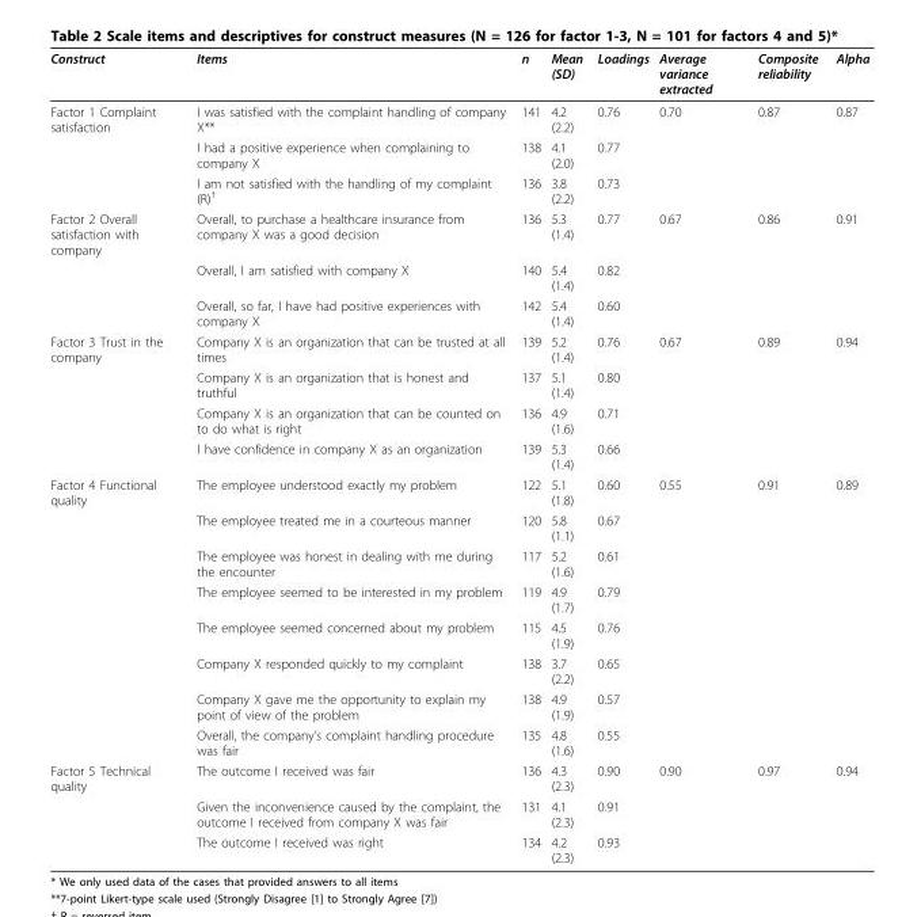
<table><thead><tr><td>Construct</td><td>Items</td><td>n</td><td>Mean (SD)</td><td>Loadings</td><td>Average variance extracted</td><td>Composite reliability</td><td>Alpha</td></tr></thead><tbody><tr><td rowspan="3">Factor 1 Complaint satisfaction</td><td>I was satisfied with the complaint handling of company X**</td><td>141</td><td>4.2 (2.2)</td><td>0.76</td><td>0.70</td><td>0.87</td><td>0.87</td></tr><tr><td>I had a positive experience when complaining to company X</td><td>138</td><td>4.1 (2.0)</td><td>0.77</td><td></td><td></td><td></td></tr><tr><td>I am not satisfied with the handling of my complaint (R)<sup>†</sup></td><td>136</td><td>3.8 (2.2)</td><td>0.73</td><td></td><td></td><td></td></tr><tr><td rowspan="3">Factor 2 Overall satisfaction with company</td><td>Overall, to purchase a healthcare insurance from company X was a good decision</td><td>136</td><td>5.3 (1.4)</td><td>0.77</td><td>0.67</td><td>0.86</td><td>0.91</td></tr><tr><td>Overall, I am satisfied with company X</td><td>140</td><td>5.4 (1.4)</td><td>0.82</td><td></td><td></td><td></td></tr><tr><td>Overall, so far, I have had positive experiences with company X</td><td>142</td><td>5.4 (1.4)</td><td>0.60</td><td></td><td></td><td></td></tr><tr><td rowspan="4">Factor 3 Trust in the company</td><td>Company X is an organization that can be trusted at all times</td><td>139</td><td>5.2 (1.4)</td><td>0.76</td><td>0.67</td><td>0.89</td><td>0.94</td></tr><tr><td>Company X is an organization that is honest and truthful</td><td>137</td><td>5.1 (1.4)</td><td>0.80</td><td></td><td></td><td></td></tr><tr><td>Company X is an organization that can be counted on to do what is right</td><td>136</td><td>4.9 (1.6)</td><td>0.71</td><td></td><td></td><td></td></tr><tr><td>I have confidence in company X as an organization</td><td>139</td><td>5.3 (1.4)</td><td>0.66</td><td></td><td></td><td></td></tr><tr><td rowspan="8">Factor 4 Functional quality</td><td>The employee understood exactly my problem</td><td>122</td><td>5.1 (1.8)</td><td>0.60</td><td>0.55</td><td>0.91</td><td>0.89</td></tr><tr><td>The employee treated me in a courteous manner</td><td>120</td><td>5.8 (1.1)</td><td>0.67</td><td></td><td></td><td></td></tr><tr><td>The employee was honest in dealing with me during the encounter</td><td>117</td><td>5.2 (1.6)</td><td>0.61</td><td></td><td></td><td></td></tr><tr><td>The employee seemed to be interested in my problem</td><td>119</td><td>4.9 (1.7)</td><td>0.79</td><td></td><td></td><td></td></tr><tr><td>The employee seemed concerned about my problem</td><td>115</td><td>4.5 (1.9)</td><td>0.76</td><td></td><td></td><td></td></tr><tr><td>Company X responded quickly to my complaint</td><td>138</td><td>3.7 (2.2)</td><td>0.65</td><td></td><td></td><td></td></tr><tr><td>Company X gave me the opportunity to explain my point of view of the problem</td><td>138</td><td>4.9 (1.9)</td><td>0.57</td><td></td><td></td><td></td></tr><tr><td>Overall, the company’s complaint handling procedure was fair</td><td>135</td><td>4.8 (1.6)</td><td>0.55</td><td></td><td></td><td></td></tr><tr><td rowspan="3">Factor 5 Technical quality</td><td>The outcome I received was fair</td><td>136</td><td>4.3 (2.3)</td><td>0.90</td><td>0.90</td><td>0.97</td><td>0.94</td></tr><tr><td>Given the inconvenience caused by the complaint, the outcome I received from company X was fair</td><td>131</td><td>4.1 (2.3)</td><td>0.91</td><td></td><td></td><td></td></tr><tr><td>The outcome I received was right</td><td>134</td><td>4.2 (2.3)</td><td>0.93</td><td></td><td></td><td></td></tr></tbody></table>